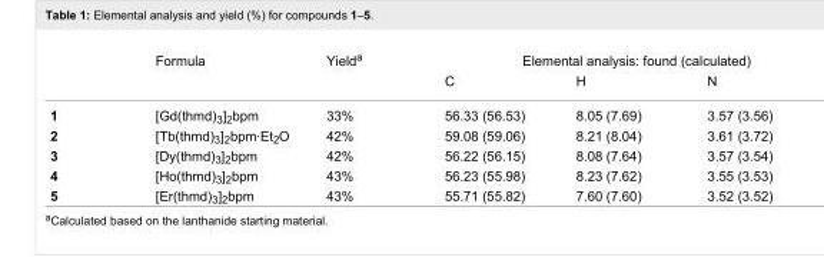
<table><thead><tr><td rowspan="2"></td><td rowspan="2">Formula</td><td rowspan="2">Yield<sup>a</sup></td><td colspan="3">Elemental analysis: found (calculated)</td></tr><tr><td>C</td><td>H</td><td>N</td></tr></thead><tbody><tr><td>1</td><td>[Gd(thmd)<sub>3</sub>]<sub>2</sub>bpm</td><td>33%</td><td>56.33 (56.53)</td><td>8.05 (7.69)</td><td>3.57 (3.56)</td></tr><tr><td>2</td><td>[Tb(thmd)<sub>3</sub>]<sub>2</sub>bpm·Et<sub>2</sub>O</td><td>42%</td><td>59.08 (59.06)</td><td>8.21 (8.04)</td><td>3.61 (3.72)</td></tr><tr><td>3</td><td>[Dy(thmd)<sub>3</sub>]<sub>2</sub>bpm</td><td>42%</td><td>56.22 (56.15)</td><td>8.08 (7.64)</td><td>3.57 (3.54)</td></tr><tr><td>4</td><td>[Ho(thmd)<sub>3</sub>]<sub>2</sub>bpm</td><td>43%</td><td>56.23 (55.98)</td><td>8.23 (7.62)</td><td>3.55 (3.53)</td></tr><tr><td>5</td><td>[Er(thmd)<sub>3</sub>]<sub>2</sub>bpm</td><td>43%</td><td>55.71 (55.82)</td><td>7.60 (7.60)</td><td>3.52 (3.52)</td></tr></tbody></table>